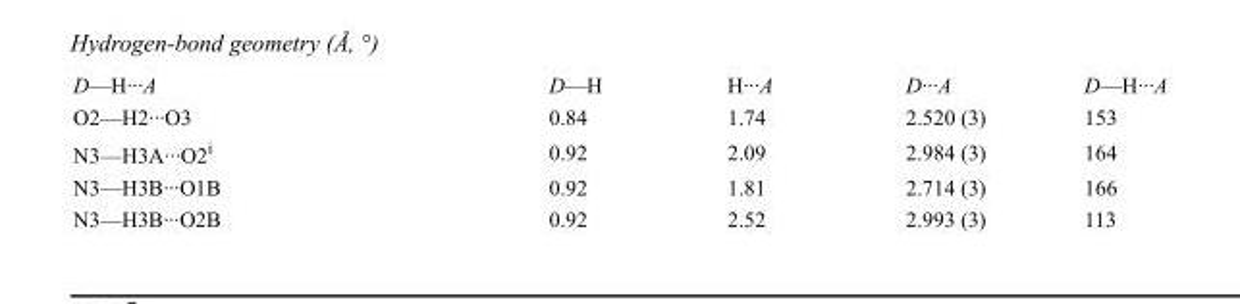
<table><tbody><tr><td>D—H···A</td><td>D—H</td><td>H···A</td><td>D···A</td><td>D—H···A</td></tr><tr><td>O2—H2···O3</td><td>0.84</td><td>1.74</td><td>2.520 (3)</td><td>153</td></tr><tr><td>N3—H3A···O2<sup>i</sup></td><td>0.92</td><td>2.09</td><td>2.984 (3)</td><td>164</td></tr><tr><td>N3—H3B···O1B</td><td>0.92</td><td>1.81</td><td>2.714 (3)</td><td>166</td></tr><tr><td>N3—H3B···O2B</td><td>0.92</td><td>2.52</td><td>2.993 (3)</td><td>113</td></tr></tbody></table>